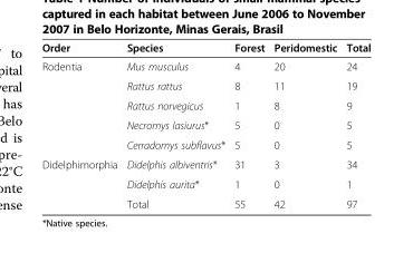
<table><thead><tr><td>Order</td><td>Species</td><td>Forest</td><td>Peridomestic</td><td>Total</td></tr></thead><tbody><tr><td rowspan="5">Rodentia</td><td>Mus musculus</td><td>4</td><td>20</td><td>24</td></tr><tr><td>Rattus rattus</td><td>8</td><td>11</td><td>19</td></tr><tr><td>Rattus norvegicus</td><td>1</td><td>8</td><td>9</td></tr><tr><td>Necromys lasiurus*</td><td>5</td><td>0</td><td>5</td></tr><tr><td>Cerradomys subflavus*</td><td>5</td><td>0</td><td>5</td></tr><tr><td rowspan="3">Didelphimorphia</td><td>Didelphis albiventris*</td><td>31</td><td>3</td><td>34</td></tr><tr><td>Didelphis aurita*</td><td>1</td><td>0</td><td>1</td></tr><tr><td>Total</td><td>55</td><td>42</td><td>97</td></tr></tbody></table>